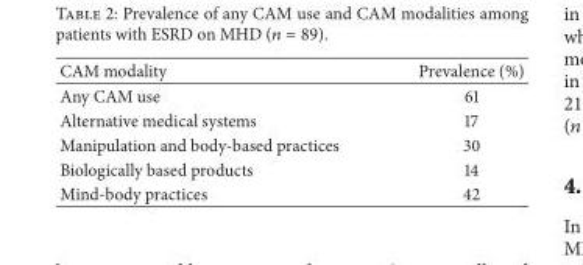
<table><thead><tr><td>CAM modality</td><td>Prevalence (%)</td></tr></thead><tbody><tr><td>Any CAM use</td><td>61</td></tr><tr><td>Alternative medical systems</td><td>17</td></tr><tr><td>Manipulation and body-based practices</td><td>30</td></tr><tr><td>Biologically based products</td><td>14</td></tr><tr><td>Mind-body practices</td><td>42</td></tr></tbody></table>